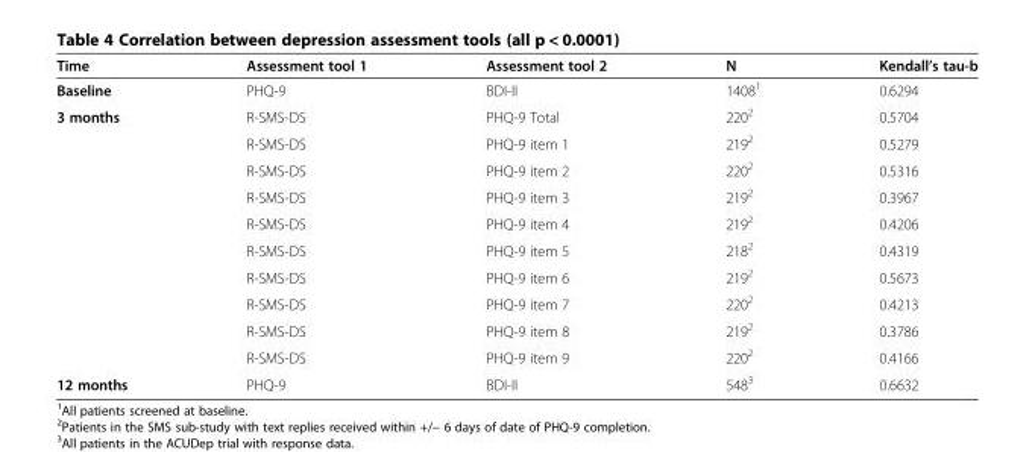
<table><thead><tr><td>Time</td><td>Assessment tool 1</td><td>Assessment tool 2</td><td>N</td><td>Kendall’s tau-b</td></tr></thead><tbody><tr><td>Baseline</td><td>PHQ-9</td><td>BDI-II</td><td>1408<sup>1</sup></td><td>0.6294</td></tr><tr><td rowspan="10">3 months</td><td>R-SMS-DS</td><td>PHQ-9 Total</td><td>220<sup>2</sup></td><td>0.5704</td></tr><tr><td>R-SMS-DS</td><td>PHQ-9 item 1</td><td>219<sup>2</sup></td><td>0.5279</td></tr><tr><td>R-SMS-DS</td><td>PHQ-9 item 2</td><td>220<sup>2</sup></td><td>0.5316</td></tr><tr><td>R-SMS-DS</td><td>PHQ-9 item 3</td><td>219<sup>2</sup></td><td>0.3967</td></tr><tr><td>R-SMS-DS</td><td>PHQ-9 item 4</td><td>219<sup>2</sup></td><td>0.4206</td></tr><tr><td>R-SMS-DS</td><td>PHQ-9 item 5</td><td>218<sup>2</sup></td><td>0.4319</td></tr><tr><td>R-SMS-DS</td><td>PHQ-9 item 6</td><td>219<sup>2</sup></td><td>0.5673</td></tr><tr><td>R-SMS-DS</td><td>PHQ-9 item 7</td><td>220<sup>2</sup></td><td>0.4213</td></tr><tr><td>R-SMS-DS</td><td>PHQ-9 item 8</td><td>219<sup>2</sup></td><td>0.3786</td></tr><tr><td>R-SMS-DS</td><td>PHQ-9 item 9</td><td>220<sup>2</sup></td><td>0.4166</td></tr><tr><td>12 months</td><td>PHQ-9</td><td>BDI-II</td><td>548<sup>3</sup></td><td>0.6632</td></tr></tbody></table>